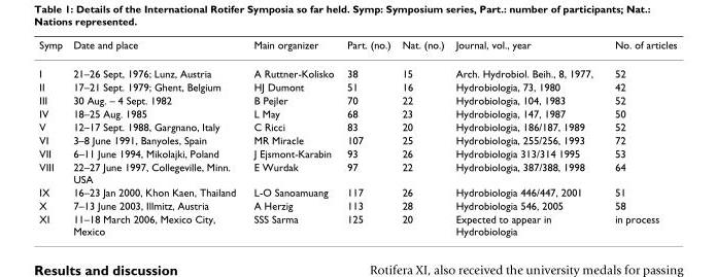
<table><thead><tr><td>Symp</td><td>Date and place</td><td>Main organizer</td><td>Part. (no.)</td><td>Nat. (no.)</td><td>Journal, vol., year</td><td>No. of articles</td></tr></thead><tbody><tr><td>I</td><td>21–26 Sept, 1976; Lunz, Austria</td><td>A Ruttner-Kolisko</td><td>38</td><td>15</td><td>Arch. Hydrobiol. Beih., 8, 1977,</td><td>52</td></tr><tr><td>II</td><td>17–21 Sept. 1979; Ghent, Belgium</td><td>HJ Dumont</td><td>51</td><td>16</td><td>Hydrobiologia, 73, 1980</td><td>42</td></tr><tr><td>III</td><td>30 Aug. – 4 Sept. 1982</td><td>B Pejler</td><td>70</td><td>22</td><td>Hydrobiologia, 104, 1983</td><td>52</td></tr><tr><td>IV</td><td>18–25 Aug. 1985</td><td>L May</td><td>68</td><td>23</td><td>Hydrobiologia, 147, 1987</td><td>50</td></tr><tr><td>V</td><td>12–17 Sept. 1988, Gargnano, Italy</td><td>C Ricci</td><td>83</td><td>20</td><td>Hydrobiologia, 186/187, 1989</td><td>52</td></tr><tr><td>VI</td><td>3–8 June 1991, Banyoles, Spain</td><td>MR Miracle</td><td>107</td><td>25</td><td>Hydrobiologia, 255/256, 1993</td><td>72</td></tr><tr><td>VII</td><td>6–11 June 1994, Mikolajki, Poland</td><td>J Ejsmont-Karabin</td><td>93</td><td>26</td><td>Hydrobiologia 313/314 1995</td><td>53</td></tr><tr><td>VIII</td><td>22–27 June 1997, Collegeville, Minn. USA</td><td>E Wurdak</td><td>97</td><td>22</td><td>Hydrobiologia, 387/388, 1998</td><td>64</td></tr><tr><td>IX</td><td>16–23 Jan 2000, Khon Kaen, Thailand</td><td>L-O Sanoamuang</td><td>117</td><td>26</td><td>Hydrobiologia 446/447, 2001</td><td>51</td></tr><tr><td>X</td><td>7–13 June 2003, Illmitz, Austria</td><td>A Herzig</td><td>113</td><td>28</td><td>Hydrobiologia 546, 2005</td><td>58</td></tr><tr><td>XI</td><td>11–18 March 2006, Mexico City, Mexico</td><td>SSS Sarma</td><td>125</td><td>20</td><td>Expected to appear in Hydrobiologia</td><td>in process</td></tr></tbody></table>